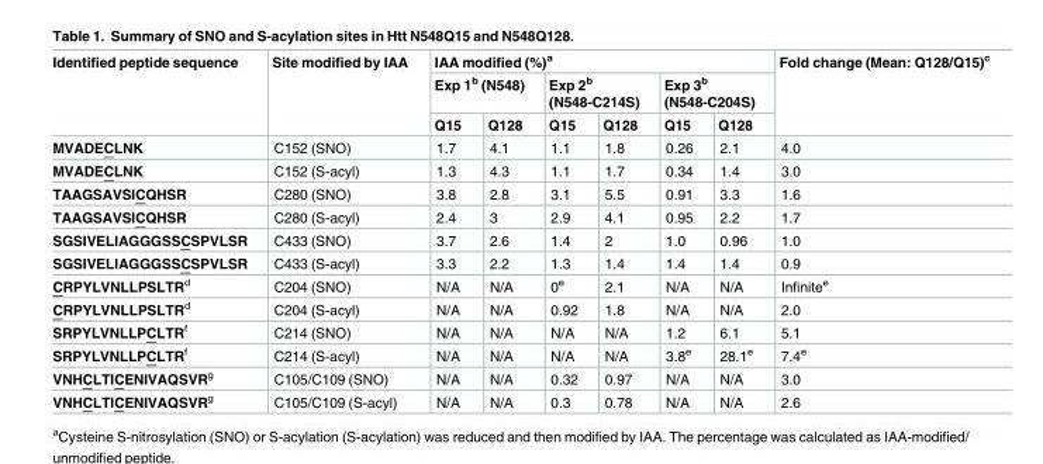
<table><thead><tr><td rowspan="3">Identified peptide sequence</td><td rowspan="3">Site modified by IAA</td><td colspan="6">IAA modified (%)<sup>a</sup></td><td rowspan="3">Fold change (Mean: Q128/Q15)<sup>c</sup></td></tr><tr><td colspan="2">Exp 1<sup>b</sup> (N548)</td><td colspan="2">Exp 2<sup>b</sup> (N548-C214S)</td><td colspan="2">Exp 3<sup>b</sup> (N548-C204S)</td></tr><tr><td>Q15</td><td>Q128</td><td>Q15</td><td>Q128</td><td>Q15</td><td>Q128</td></tr></thead><tbody><tr><td>MVADECLNK</td><td>C152 (SNO)</td><td>1.7</td><td>4.1</td><td>1.1</td><td>1.8</td><td>0.26</td><td>2.1</td><td>4.0</td></tr><tr><td>MVADECLNK</td><td>C152 (S-acyl)</td><td>1.3</td><td>4.3</td><td>1.1</td><td>1.7</td><td>0.34</td><td>1.4</td><td>3.0</td></tr><tr><td>TAAGSAVSICQHSR</td><td>C280 (SNO)</td><td>3.8</td><td>2.8</td><td>3.1</td><td>5.5</td><td>0.91</td><td>3.3</td><td>1.6</td></tr><tr><td>TAAGSAVSICQHSR</td><td>C280 (S-acyl)</td><td>2.4</td><td>3</td><td>2.9</td><td>4.1</td><td>0.95</td><td>2.2</td><td>1.7</td></tr><tr><td>SGSIVELIAGGGSSCSPVLSR</td><td>C433 (SNO)</td><td>3.7</td><td>2.6</td><td>1.4</td><td>2</td><td>1.0</td><td>0.96</td><td>1.0</td></tr><tr><td>SGSIVELIAGGGSSCSPVLSR</td><td>C433 (S-acyl)</td><td>3.3</td><td>2.2</td><td>1.3</td><td>1.4</td><td>1.4</td><td>1.4</td><td>0.9</td></tr><tr><td>CRPYLVNLLPSLTR<sup>d</sup></td><td>C204 (SNO)</td><td>N/A</td><td>N/A</td><td>0<sup>e</sup></td><td>2.1</td><td>N/A</td><td>N/A</td><td>Infinite<sup>e</sup></td></tr><tr><td>CRPYLVNLLPSLTR<sup>d</sup></td><td>C204 (S-acyl)</td><td>N/A</td><td>N/A</td><td>0.92</td><td>1.8</td><td>N/A</td><td>N/A</td><td>2.0</td></tr><tr><td>SRPYLVNLLPCLTR<sup>f</sup></td><td>C214 (SNO)</td><td>N/A</td><td>N/A</td><td>N/A</td><td>N/A</td><td>1.2</td><td>6.1</td><td>5.1</td></tr><tr><td>SRPYLVNLLPCLTR<sup>f</sup></td><td>C214 (S-acyl)</td><td>N/A</td><td>N/A</td><td>N/A</td><td>N/A</td><td>3.8<sup>e</sup></td><td>28.1<sup>e</sup></td><td>7.4<sup>e</sup></td></tr><tr><td>VNHCLTICENIVAQSVR<sup>g</sup></td><td>C105/C109 (SNO)</td><td>N/A</td><td>N/A</td><td>0.32</td><td>0.97</td><td>N/A</td><td>N/A</td><td>3.0</td></tr><tr><td>VNHCLTICENIVAQSVR<sup>g</sup></td><td>C105/C109 (S-acyl)</td><td>N/A</td><td>N/A</td><td>0.3</td><td>0.78</td><td>N/A</td><td>N/A</td><td>2.6</td></tr></tbody></table>